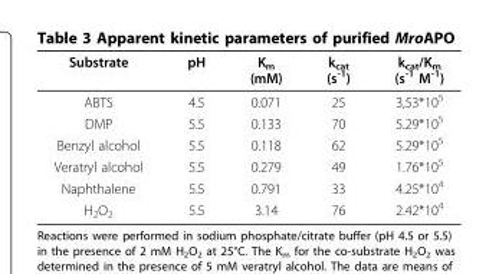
<table><thead><tr><td>Substrate</td><td>pH</td><td>K<sub>m</sub> (mM)</td><td>k<sub>cat</sub> (s<sup>-1</sup>)</td><td>k<sub>cat</sub>/K<sub>m</sub> (s<sup>-1</sup> M<sup>-1</sup>)</td></tr></thead><tbody><tr><td>ABTS</td><td>4.5</td><td>0.071</td><td>25</td><td>3,53*10<sup>5</sup></td></tr><tr><td>DMP</td><td>5.5</td><td>0.133</td><td>70</td><td>5.29*10<sup>5</sup></td></tr><tr><td>Benzyl alcohol</td><td>5.5</td><td>0.118</td><td>62</td><td>5.29*10<sup>5</sup></td></tr><tr><td>Veratryl alcohol</td><td>5.5</td><td>0.279</td><td>49</td><td>1.76*10<sup>5</sup></td></tr><tr><td>Naphthalene</td><td>5.5</td><td>0.791</td><td>33</td><td>4.25*10<sup>4</sup></td></tr><tr><td>H<sub>2</sub>O<sub>2</sub></td><td>5.5</td><td>3.14</td><td>76</td><td>2.42*10<sup>4</sup></td></tr></tbody></table>